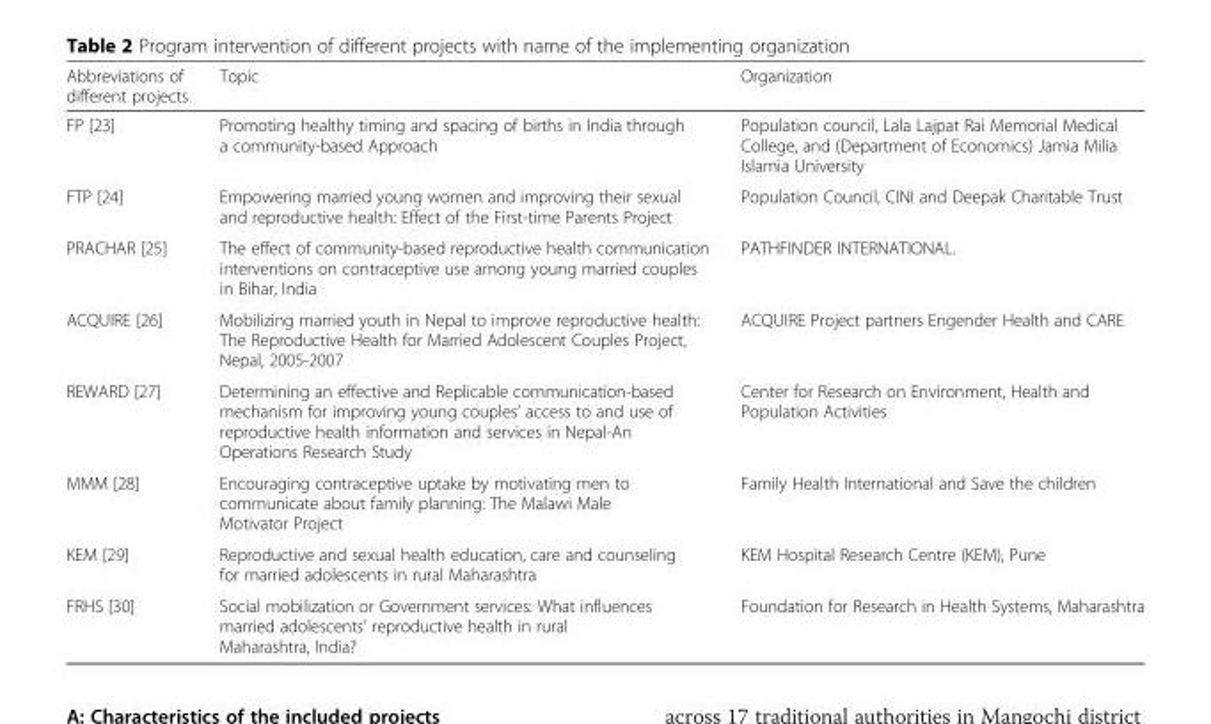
<table><thead><tr><td>Abbreviations of different projects</td><td>Topic</td><td>Organization</td></tr></thead><tbody><tr><td>FP [23]</td><td>Promoting healthy timing and spacing of births in India through a community-based Approach</td><td>Population council, Lala Lajpat Rai Memorial Medical College, and (Department of Economics) Jamia Milia Islamia University</td></tr><tr><td>FTP [24]</td><td>Empowering married young women and improving their sexual and reproductive health: Effect of the First-time Parents Project</td><td>Population Council, CINI and Deepak Charitable Trust</td></tr><tr><td>PRACHAR [25]</td><td>The effect of community-based reproductive health communication interventions on contraceptive use among young married couples in Bihar, India</td><td>PATHFINDER INTERNATIONAL.</td></tr><tr><td>ACQUIRE [26]</td><td>Mobilizing married youth in Nepal to improve reproductive health: The Reproductive Health for Married Adolescent Couples Project, Nepal, 2005-2007</td><td>ACQUIRE Project partners Engender Health and CARE</td></tr><tr><td>REWARD [27]</td><td>Determining an effective and Replicable communication-based mechanism for improving young couples’ access to and use of reproductive health information and services in Nepal-An Operations Research Study</td><td>Center for Research on Environment, Health and Population Activities</td></tr><tr><td>MMM [28]</td><td>Encouraging contraceptive uptake by motivating men to communicate about family planning: The Malawi Male Motivator Project</td><td>Family Health International and Save the children</td></tr><tr><td>KEM [29]</td><td>Reproductive and sexual health education, care and counseling for married adolescents in rural Maharashtra</td><td>KEM Hospital Research Centre (KEM), Pune</td></tr><tr><td>FRHS [30]</td><td>Social mobilization or Government services: What influences married adolescents’ reproductive health in rural Maharashtra, India?</td><td>Foundation for Research in Health Systems, Maharashtra</td></tr></tbody></table>